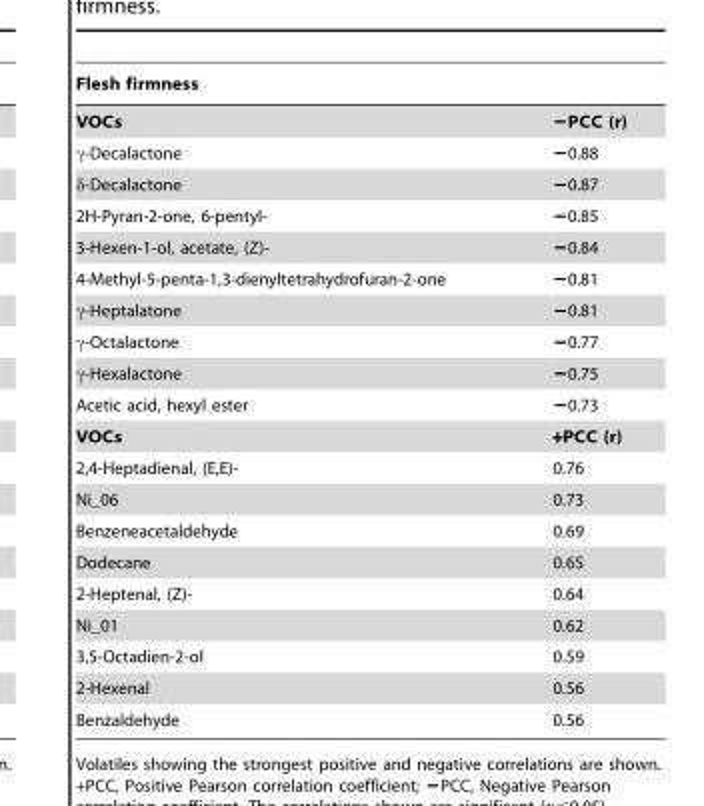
<table><thead><tr><td colspan="2">Flesh firmness</td></tr><tr><td>VOCs</td><td>−PCC (r)</td></tr></thead><tbody><tr><td>γ-Decalactone</td><td>−0.88</td></tr><tr><td>δ-Decalactone</td><td>−0.87</td></tr><tr><td>2H-Pyran-2-one, 6-pentyl-</td><td>−0.85</td></tr><tr><td>3-Hexen-1-ol, acetate, (Z)-</td><td>−0.84</td></tr><tr><td>4-Methyl-5-penta-1,3-dienyltetrahydrofuran-2-one</td><td>−0.81</td></tr><tr><td>γ-Heptalatone</td><td>−0.81</td></tr><tr><td>γ-Octalactone</td><td>−0.77</td></tr><tr><td>γ-Hexalactone</td><td>−0.75</td></tr><tr><td>Acetic acid, hexyl ester</td><td>−0.73</td></tr><tr><td>VOCs</td><td>+PCC (r)</td></tr><tr><td>2,4-Heptadienal, (E,E)-</td><td>0.76</td></tr><tr><td>Ni_06</td><td>0.73</td></tr><tr><td>Benzeneacetaldehyde</td><td>0.69</td></tr><tr><td>Dodecane</td><td>0.65</td></tr><tr><td>2-Heptenal, (Z)-</td><td>0.64</td></tr><tr><td>Ni_01</td><td>0.62</td></tr><tr><td>3,5-Octadien-2-ol</td><td>0.59</td></tr><tr><td>2-Hexenal</td><td>0.56</td></tr><tr><td>Benzaldehyde</td><td>0.56</td></tr></tbody></table>